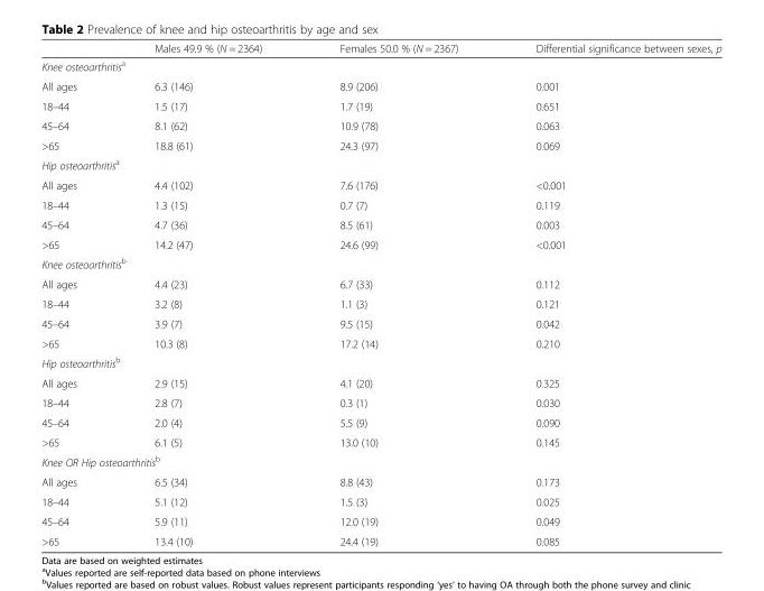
<table><thead><tr><td></td><td>Males 49.9 % (N = 2364)</td><td>Females 50.0 % (N = 2367)</td><td>Differential significance between sexes, p</td></tr></thead><tbody><tr><td colspan="4">Knee osteoarthritis<sup>a</sup></td></tr><tr><td>All ages</td><td>6.3 (146)</td><td>8.9 (206)</td><td>0.001</td></tr><tr><td>18–44</td><td>1.5 (17)</td><td>1.7 (19)</td><td>0.651</td></tr><tr><td>45–64</td><td>8.1 (62)</td><td>10.9 (78)</td><td>0.063</td></tr><tr><td>&gt;65</td><td>18.8 (61)</td><td>24.3 (97)</td><td>0.069</td></tr><tr><td colspan="4">Hip osteoarthritis<sup>a</sup></td></tr><tr><td>All ages</td><td>4.4 (102)</td><td>7.6 (176)</td><td>&lt;0.001</td></tr><tr><td>18–44</td><td>1.3 (15)</td><td>0.7 (7)</td><td>0.119</td></tr><tr><td>45–64</td><td>4.7 (36)</td><td>8.5 (61)</td><td>0.003</td></tr><tr><td>&gt;65</td><td>14.2 (47)</td><td>24.6 (99)</td><td>&lt;0.001</td></tr><tr><td colspan="4">Knee osteoarthritis<sup>b</sup></td></tr><tr><td>All ages</td><td>4.4 (23)</td><td>6.7 (33)</td><td>0.112</td></tr><tr><td>18–44</td><td>3.2 (8)</td><td>1.1 (3)</td><td>0.121</td></tr><tr><td>45–64</td><td>3.9 (7)</td><td>9.5 (15)</td><td>0.042</td></tr><tr><td>&gt;65</td><td>10.3 (8)</td><td>17.2 (14)</td><td>0.210</td></tr><tr><td colspan="4">Hip osteoarthritis<sup>b</sup></td></tr><tr><td>All ages</td><td>2.9 (15)</td><td>4.1 (20)</td><td>0.325</td></tr><tr><td>18–44</td><td>2.8 (7)</td><td>0.3 (1)</td><td>0.030</td></tr><tr><td>45–64</td><td>2.0 (4)</td><td>5.5 (9)</td><td>0.090</td></tr><tr><td>&gt;65</td><td>6.1 (5)</td><td>13.0 (10)</td><td>0.145</td></tr><tr><td colspan="4">Knee OR Hip osteoarthritis<sup>b</sup></td></tr><tr><td>All ages</td><td>6.5 (34)</td><td>8.8 (43)</td><td>0.173</td></tr><tr><td>18–44</td><td>5.1 (12)</td><td>1.5 (3)</td><td>0.025</td></tr><tr><td>45–64</td><td>5.9 (11)</td><td>12.0 (19)</td><td>0.049</td></tr><tr><td>&gt;65</td><td>13.4 (10)</td><td>24.4 (19)</td><td>0.085</td></tr></tbody></table>